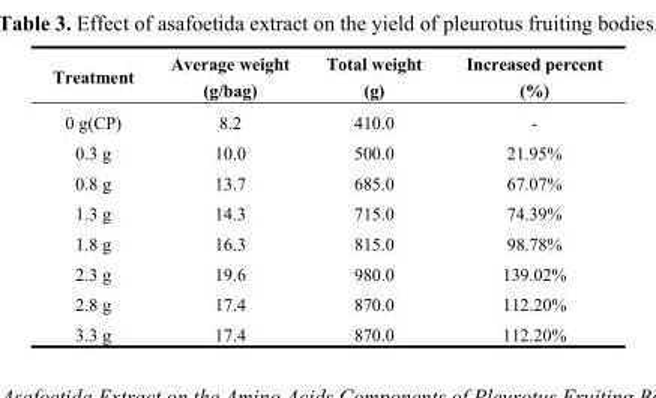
<table><thead><tr><td>Treatment</td><td>Average weight (g/bag)</td><td>Total weight (g)</td><td>Increased percent (%)</td></tr></thead><tbody><tr><td>0 g(CP)</td><td>8.2</td><td>410.0</td><td>-</td></tr><tr><td>0.3 g</td><td>10.0</td><td>500.0</td><td>21.95%</td></tr><tr><td>0.8 g</td><td>13.7</td><td>685.0</td><td>67.07%</td></tr><tr><td>1.3 g</td><td>14.3</td><td>715.0</td><td>74.39%</td></tr><tr><td>1.8 g</td><td>16.3</td><td>815.0</td><td>98.78%</td></tr><tr><td>2.3 g</td><td>19.6</td><td>980.0</td><td>139.02%</td></tr><tr><td>2.8 g</td><td>17.4</td><td>870.0</td><td>112.20%</td></tr><tr><td>3.3 g</td><td>17.4</td><td>870.0</td><td>112.20%</td></tr></tbody></table>